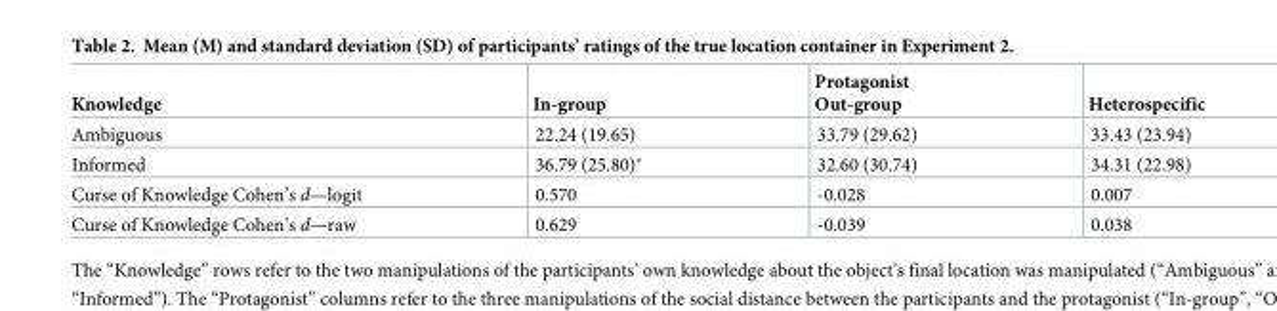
<table><thead><tr><td>Knowledge</td><td>In-group</td><td>Protagonist Out-group</td><td>Heterospecific</td></tr></thead><tbody><tr><td>Ambiguous</td><td>22.24 (19.65)</td><td>33.79 (29.62)</td><td>33.43 (23.94)</td></tr><tr><td>Informed</td><td>36.79 (25.80)*</td><td>32.60 (30.74)</td><td>34.31 (22.98)</td></tr><tr><td>Curse of Knowledge Cohen’s d—logit</td><td>0.570</td><td>-0.028</td><td>0.007</td></tr><tr><td>Curse of Knowledge Cohen’s d—raw</td><td>0.629</td><td>-0.039</td><td>0.038</td></tr></tbody></table>